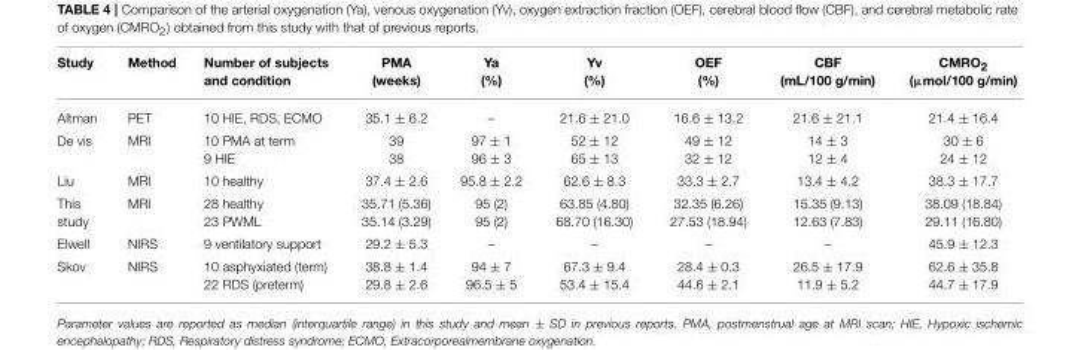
<table><thead><tr><td>Study</td><td>Method</td><td>Number of subjects and condition</td><td>PMA (weeks)</td><td>Ya (%)</td><td>Yv (%)</td><td>OEF (%)</td><td>CBF (mL/100 g/min)</td><td>CMRO<sub>2</sub> (µmol/100 g/min)</td></tr></thead><tbody><tr><td>Altman</td><td>PET</td><td>10 HIE, RDS, ECMO</td><td>35.1 ± 6.2</td><td>–</td><td>21.6 ± 21.0</td><td>16.6 ± 13.2</td><td>21.6 ± 21.1</td><td>21.4 ± 16.4</td></tr><tr><td>De vis</td><td>MRI</td><td>10 PMA at term 9 HIE</td><td>39 38</td><td>97 ± 1 96 ± 3</td><td>52 ± 12 65 ± 13</td><td>49 ± 12 32 ± 12</td><td>14 ± 3 12 ± 4</td><td>30 ± 6 24 ± 12</td></tr><tr><td>Liu</td><td>MRI</td><td>10 healthy</td><td>37.4 ± 2.6</td><td>95.8 ± 2.2</td><td>62.6 ± 8.3</td><td>33.3 ± 2.7</td><td>13.4 ± 4.2</td><td>38.3 ± 17.7</td></tr><tr><td>This study</td><td>MRI</td><td>28 healthy 23 PWML</td><td>35.71 (5.36) 35.14 (3.29)</td><td>95 (2) 95 (2)</td><td>63.85 (4.80) 68.70 (16.30)</td><td>32.35 (6.26) 27.53 (18.94)</td><td>15.35 (9.13) 12.63 (7.83)</td><td>38.09 (18.84) 29.11 (16.80)</td></tr><tr><td>Elwell</td><td>NIRS</td><td>9 ventilatory support</td><td>29.2 ± 5.3</td><td>–</td><td>–</td><td>–</td><td>–</td><td>45.9 ± 12.3</td></tr><tr><td>Skov</td><td>NIRS</td><td>10 asphyxiated (term) 22 RDS (preterm)</td><td>38.8 ± 1.4 29.8 ± 2.6</td><td>94 ± 7 96.5 ± 5</td><td>67.3 ± 9.4 53.4 ± 15.4</td><td>28.4 ± 0.3 44.6 ± 2.1</td><td>26.5 ± 17.9 11.9 ± 5.2</td><td>62.6 ± 35.8 44.7 ± 17.9</td></tr></tbody></table>